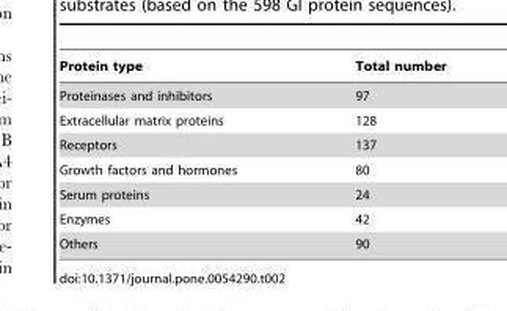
<table><thead><tr><td>Protein type</td><td>Total number</td></tr></thead><tbody><tr><td>Proteinases and inhibitors</td><td>97</td></tr><tr><td>Extracellular matrix proteins</td><td>128</td></tr><tr><td>Receptors</td><td>137</td></tr><tr><td>Growth factors and hormones</td><td>80</td></tr><tr><td>Serum proteins</td><td>24</td></tr><tr><td>Enzymes</td><td>42</td></tr><tr><td>Others</td><td>90</td></tr></tbody></table>